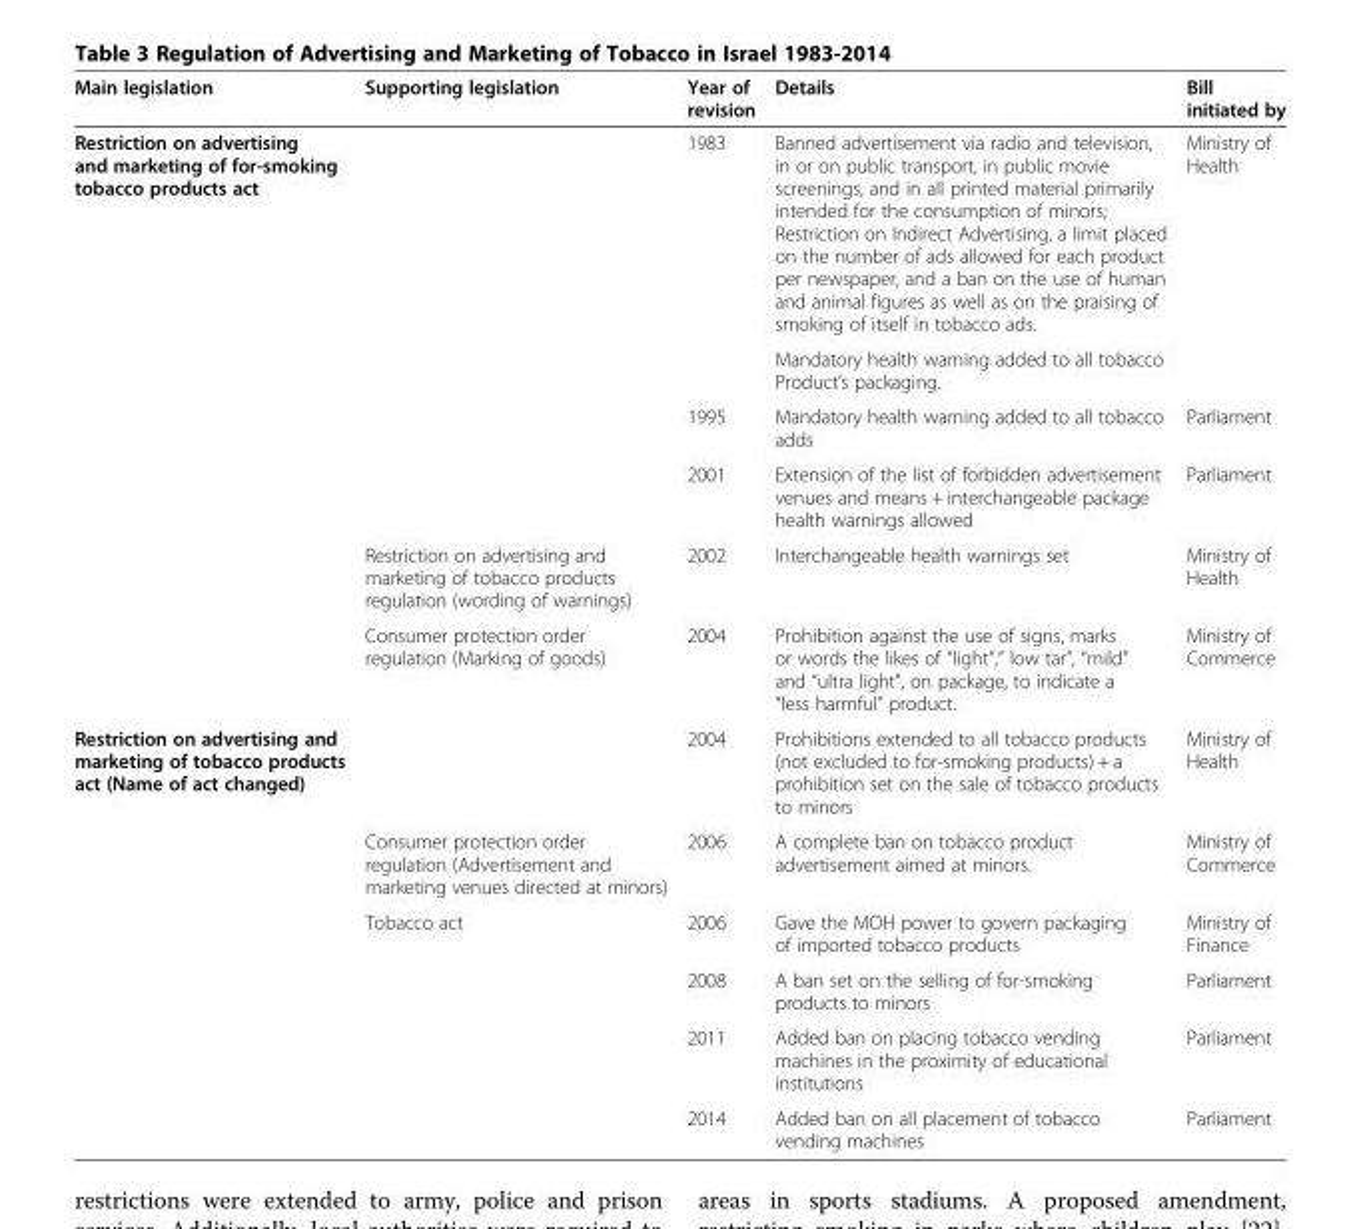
<table><thead><tr><td>Main legislation</td><td>Supporting legislation</td><td>Year of revision</td><td>Details</td><td>Bill initiated by</td></tr></thead><tbody><tr><td rowspan="6">Restriction on advertising and marketing of for-smoking tobacco products act</td><td rowspan="2"></td><td rowspan="2">1983</td><td>Banned advertisement via radio and television, in or on public transport, in public movie screenings, and in all printed material primarily intended for the consumption of minors; Restriction on Indirect Advertising, a limit placed on the number of ads allowed for each product per newspaper, and a ban on the use of human and animal figures as well as on the praising of smoking of itself in tobacco ads.</td><td rowspan="2">Ministry of Health</td></tr><tr><td>Mandatory health warning added to all tobacco Product’s packaging.</td></tr><tr><td></td><td>1995</td><td>Mandatory health warning added to all tobacco adds</td><td>Parliament</td></tr><tr><td></td><td>2001</td><td>Extension of the list of forbidden advertisement venues and means + interchangeable package health warnings allowed</td><td>Parliament</td></tr><tr><td>Restriction on advertising and marketing of tobacco products regulation (wording of warnings)</td><td>2002</td><td>Interchangeable health warnings set</td><td>Ministry of Health</td></tr><tr><td>Consumer protection order regulation (Marking of goods)</td><td>2004</td><td>Prohibition against the use of signs, marks or words the likes of “light”,” low tar”, “mild” and “ultra light”, on package, to indicate a “less harmful” product.</td><td>Ministry of Commerce</td></tr><tr><td rowspan="6">Restriction on advertising and marketing of tobacco products act (Name of act changed)</td><td></td><td>2004</td><td>Prohibitions extended to all tobacco products (not excluded to for-smoking products) + a prohibition set on the sale of tobacco products to minors</td><td>Ministry of Health</td></tr><tr><td>Consumer protection order regulation (Advertisement and marketing venues directed at minors)</td><td>2006</td><td>A complete ban on tobacco product advertisement aimed at minors.</td><td>Ministry of Commerce</td></tr><tr><td>Tobacco act</td><td>2006</td><td>Gave the MOH power to govern packaging of imported tobacco products</td><td>Ministry of Finance</td></tr><tr><td></td><td>2008</td><td>A ban set on the selling of for-smoking products to minors</td><td>Parliament</td></tr><tr><td></td><td>2011</td><td>Added ban on placing tobacco vending machines in the proximity of educational institutions</td><td>Parliament</td></tr><tr><td></td><td>2014</td><td>Added ban on all placement of tobacco vending machines</td><td>Parliament</td></tr></tbody></table>